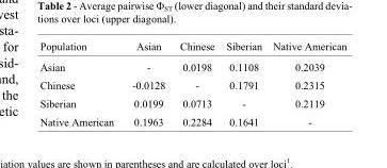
<table><thead><tr><td>Population</td><td>Asian</td><td>Chinese</td><td>Siberian</td><td>Native American</td></tr></thead><tbody><tr><td>Asian</td><td>-</td><td>0.0198</td><td>0.1108</td><td>0.2039</td></tr><tr><td>Chinese</td><td>-0.0128</td><td>-</td><td>0.1791</td><td>0.2315</td></tr><tr><td>Siberian</td><td>0.0199</td><td>0.0713</td><td>-</td><td>0.2119</td></tr><tr><td>Native American</td><td>0.1963</td><td>0.2284</td><td>0.1641</td><td>-</td></tr></tbody></table>